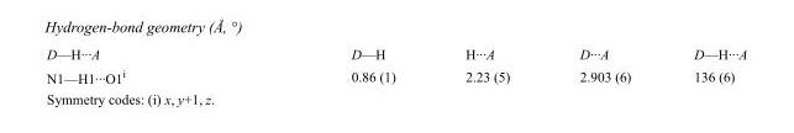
<table><tbody><tr><td>D—H···A</td><td>D—H</td><td>H···A</td><td>D···A</td><td>D—H···A</td></tr><tr><td>N1—H1···O1<sup>i</sup></td><td>0.86 (1)</td><td>2.23 (5)</td><td>2.903 (6)</td><td>136 (6)</td></tr></tbody></table>